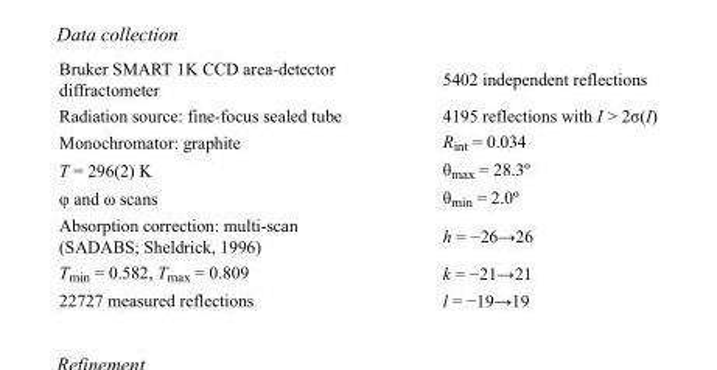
<table><tbody><tr><td>Bruker SMART 1K CCD area-detector diffractometer</td><td>5402 independent reflections</td></tr><tr><td>Radiation source: fine-focus sealed tube</td><td>4195 reflections with I &gt; 2σ(I)</td></tr><tr><td>Monochromator: graphite</td><td>R<sub>int</sub> = 0.034</td></tr><tr><td>T = 296(2) K</td><td>θ<sub>max</sub> = 28.3º</td></tr><tr><td>φ and ω scans</td><td>θ<sub>min</sub> = 2.0º</td></tr><tr><td>Absorption correction: multi-scan (SADABS; Sheldrick, 1996)</td><td>h = −26→26</td></tr><tr><td>T<sub>min</sub> = 0.582, T<sub>max</sub> = 0.809</td><td>k = −21→21</td></tr><tr><td>22727 measured reflections</td><td>l = −19→19</td></tr></tbody></table>